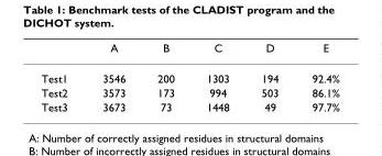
<table><thead><tr><td></td><td>A</td><td>B</td><td>C</td><td>D</td><td>E</td></tr></thead><tbody><tr><td>Test1</td><td>3546</td><td>200</td><td>1303</td><td>194</td><td>92.4%</td></tr><tr><td>Test2</td><td>3573</td><td>173</td><td>994</td><td>503</td><td>86.1%</td></tr><tr><td>Test3</td><td>3673</td><td>73</td><td>1448</td><td>49</td><td>97.7%</td></tr></tbody></table>